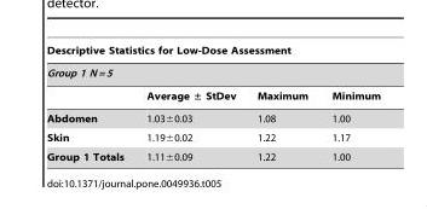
<table><thead><tr><td rowspan="2" colspan="4">Descriptive Statistics for Low-Dose Assessment Group 1 N = 5</td></tr><tr></tr><tr><td></td><td>Average ± StDev</td><td>Maximum</td><td>Minimum</td></tr></thead><tbody><tr><td>Abdomen</td><td>1.03±0.03</td><td>1.08</td><td>1.00</td></tr><tr><td>Skin</td><td>1.19±0.02</td><td>1.22</td><td>1.17</td></tr><tr><td>Group 1 Totals</td><td>1.11±0.09</td><td>1.22</td><td>1.00</td></tr></tbody></table>